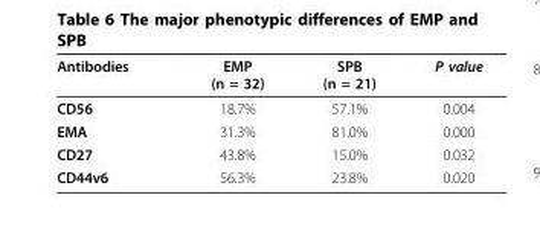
<table><thead><tr><td>Antibodies</td><td>EMP (n = 32)</td><td>SPB (n = 21)</td><td>P value</td></tr></thead><tbody><tr><td>CD56</td><td>18.7%</td><td>57.1%</td><td>0.004</td></tr><tr><td>EMA</td><td>31.3%</td><td>81.0%</td><td>0.000</td></tr><tr><td>CD27</td><td>43.8%</td><td>15.0%</td><td>0.032</td></tr><tr><td>CD44v6</td><td>56.3%</td><td>23.8%</td><td>0.020</td></tr></tbody></table>